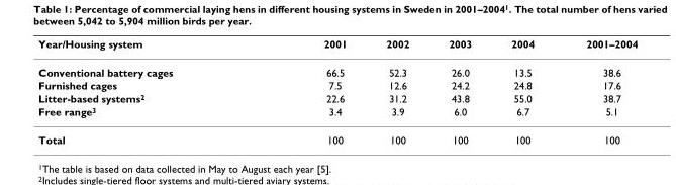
<table><thead><tr><td>Year/Housing system</td><td>2001</td><td>2002</td><td>2003</td><td>2004</td><td>2001–2004</td></tr></thead><tbody><tr><td>Conventional battery cages</td><td>66.5</td><td>52.3</td><td>26.0</td><td>13.5</td><td>38.6</td></tr><tr><td>Furnished cages</td><td>7.5</td><td>12.6</td><td>24.2</td><td>24.8</td><td>17.6</td></tr><tr><td>Litter-based systems<sup>2</sup></td><td>22.6</td><td>31.2</td><td>43.8</td><td>55.0</td><td>38.7</td></tr><tr><td>Free range<sup>3</sup></td><td>3.4</td><td>3.9</td><td>6.0</td><td>6.7</td><td>5.1</td></tr><tr><td>Total</td><td>100</td><td>100</td><td>100</td><td>100</td><td>100</td></tr></tbody></table>